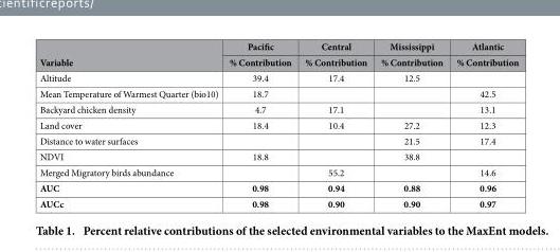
<table><thead><tr><td rowspan="2">Variable</td><td rowspan="2">Pacific % Contribution</td><td rowspan="2">Central % Contribution</td><td rowspan="2">Mississippi % Contribution</td><td rowspan="2">Atlantic % Contribution</td></tr><tr></tr></thead><tbody><tr><td>Altitude</td><td>39.4</td><td>17.4</td><td>12.5</td><td></td></tr><tr><td>Mean Temperature of Warmest Quarter (bio10)</td><td>18.7</td><td></td><td></td><td>42.5</td></tr><tr><td>Backyard chicken density</td><td>4.7</td><td>17.1</td><td></td><td>13.1</td></tr><tr><td>Land cover</td><td>18.4</td><td>10.4</td><td>27.2</td><td>12.3</td></tr><tr><td>Distance to water surfaces</td><td></td><td></td><td>21.5</td><td>17.4</td></tr><tr><td>NDVI</td><td>18.8</td><td></td><td>38.8</td><td></td></tr><tr><td>Merged Migratory birds abundance</td><td></td><td>55.2</td><td></td><td>14.6</td></tr><tr><td>AUC</td><td>0.98</td><td>0.94</td><td>0.88</td><td>0.96</td></tr><tr><td>AUCc</td><td>0.98</td><td>0.90</td><td>0.90</td><td>0.97</td></tr></tbody></table>